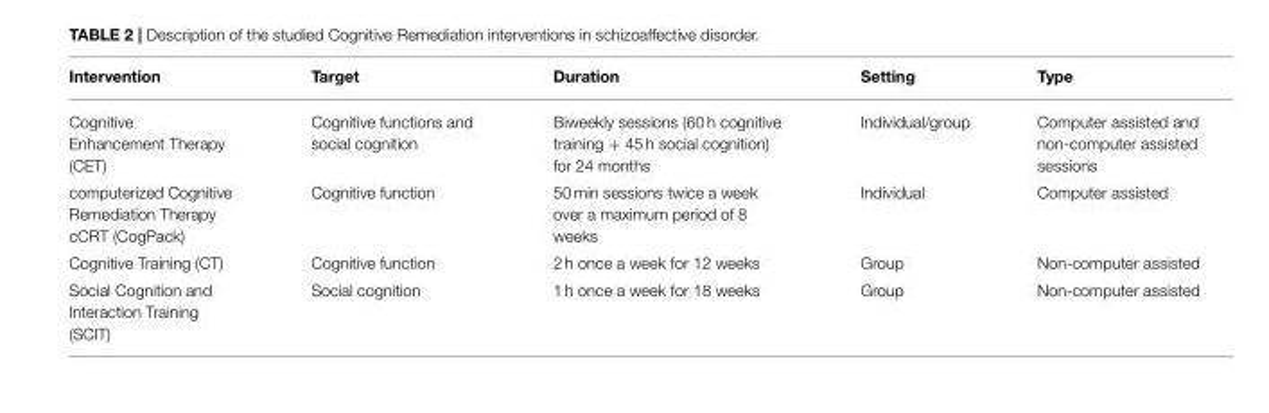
<table><thead><tr><td>Intervention</td><td>Target</td><td>Duration</td><td>Setting</td><td>Type</td></tr></thead><tbody><tr><td>Cognitive Enhancement Therapy (CET)</td><td>Cognitive functions and social cognition</td><td>Biweekly sessions (60 h cognitive training + 45 h social cognition) for 24 months</td><td>Individual/group</td><td>Computer assisted and non-computer assisted sessions</td></tr><tr><td>computerized Cognitive Remediation Therapy cCRT (CogPack)</td><td>Cognitive function</td><td>50 min sessions twice a week over a maximum period of 8 weeks</td><td>Individual</td><td>Computer assisted</td></tr><tr><td>Cognitive Training (CT)</td><td>Cognitive function</td><td>2 h once a week for 12 weeks</td><td>Group</td><td>Non-computer assisted</td></tr><tr><td>Social Cognition and Interaction Training (SCIT)</td><td>Social cognition</td><td>1 h once a week for 18 weeks</td><td>Group</td><td>Non-computer assisted</td></tr></tbody></table>